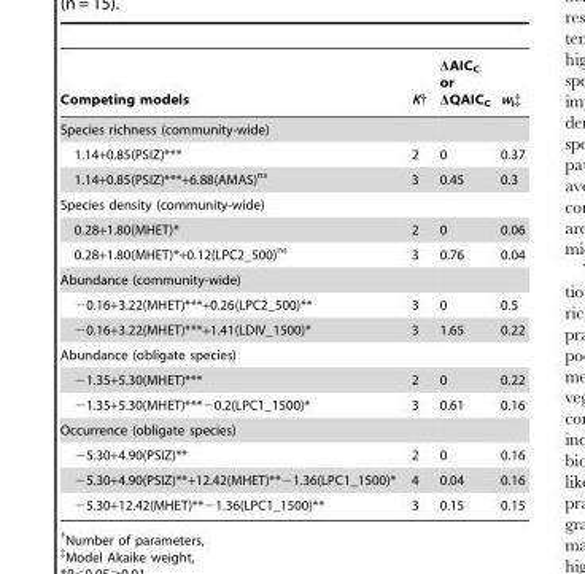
<table><thead><tr><td>Competing models</td><td>K†</td><td>ΔAIC<sub>C</sub> or ΔQAIC<sub>C</sub></td><td>w<sub>i</sub>‡</td></tr></thead><tbody><tr><td colspan="4">Species richness (community-wide)</td></tr><tr><td>1.14+0.85(PSIZ)***</td><td>2</td><td>0</td><td>0.37</td></tr><tr><td>1.14+0.85(PSIZ)***+6.88(AMAS)<sup>ns</sup></td><td>3</td><td>0.45</td><td>0.3</td></tr><tr><td colspan="4">Species density (community-wide)</td></tr><tr><td>0.28+1.80(MHET)*</td><td>2</td><td>0</td><td>0.06</td></tr><tr><td>0.28+1.80(MHET)*+0.12(LPC2_500)<sup>ns</sup></td><td>3</td><td>0.76</td><td>0.04</td></tr><tr><td colspan="4">Abundance (community-wide)</td></tr><tr><td>−0.16+3.22(MHET)***+0.26(LPC2_500)**</td><td>3</td><td>0</td><td>0.5</td></tr><tr><td>−0.16+3.22(MHET)***+1.41(LDIV_1500)*</td><td>3</td><td>1.65</td><td>0.22</td></tr><tr><td colspan="4">Abundance (obligate species)</td></tr><tr><td>−1.35+5.30(MHET)***</td><td>2</td><td>0</td><td>0.22</td></tr><tr><td>−1.35+5.30(MHET)***−0.2(LPC1_1500)*</td><td>3</td><td>0.61</td><td>0.16</td></tr><tr><td colspan="4">Occurrence (obligate species)</td></tr><tr><td>−5.30+4.90(PSIZ)**</td><td>2</td><td>0</td><td>0.16</td></tr><tr><td>−5.30+4.90(PSIZ)**+12.42(MHET)**−1.36(LPC1_1500)*</td><td>4</td><td>0.04</td><td>0.16</td></tr><tr><td>−5.30+12.42(MHET)**−1.36(LPC1_1500)**</td><td>3</td><td>0.15</td><td>0.15</td></tr></tbody></table>